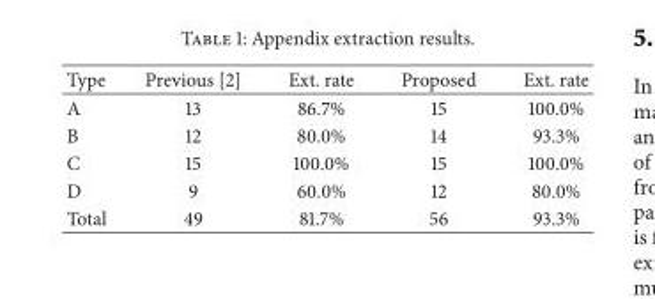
<table><thead><tr><td>Type</td><td>Previous [2]</td><td>Ext. rate</td><td>Proposed</td><td>Ext. rate</td></tr></thead><tbody><tr><td>A</td><td>13</td><td>86.7%</td><td>15</td><td>100.0%</td></tr><tr><td>B</td><td>12</td><td>80.0%</td><td>14</td><td>93.3%</td></tr><tr><td>C</td><td>15</td><td>100.0%</td><td>15</td><td>100.0%</td></tr><tr><td>D</td><td>9</td><td>60.0%</td><td>12</td><td>80.0%</td></tr><tr><td>Total</td><td>49</td><td>81.7%</td><td>56</td><td>93.3%</td></tr></tbody></table>